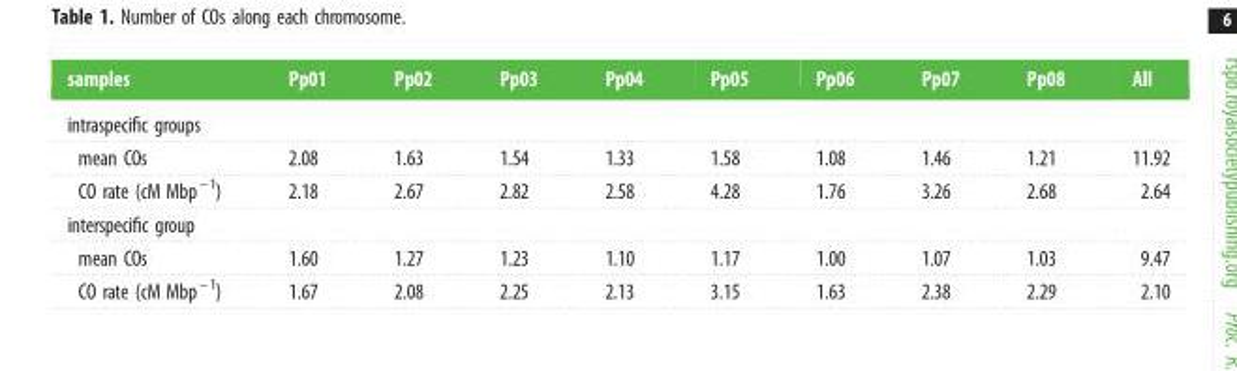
<table><thead><tr><td>samples</td><td>Pp01</td><td>Pp02</td><td>Pp03</td><td>Pp04</td><td>Pp05</td><td>Pp06</td><td>Pp07</td><td>Pp08</td><td>All</td></tr></thead><tbody><tr><td colspan="10">intraspecific groups</td></tr><tr><td>mean COs</td><td>2.08</td><td>1.63</td><td>1.54</td><td>1.33</td><td>1.58</td><td>1.08</td><td>1.46</td><td>1.21</td><td>11.92</td></tr><tr><td>CO rate (cM Mbp<sup>–1</sup>)</td><td>2.18</td><td>2.67</td><td>2.82</td><td>2.58</td><td>4.28</td><td>1.76</td><td>3.26</td><td>2.68</td><td>2.64</td></tr><tr><td colspan="10">interspecific group</td></tr><tr><td>mean COs</td><td>1.60</td><td>1.27</td><td>1.23</td><td>1.10</td><td>1.17</td><td>1.00</td><td>1.07</td><td>1.03</td><td>9.47</td></tr><tr><td>CO rate (cM Mbp<sup>–1</sup>)</td><td>1.67</td><td>2.08</td><td>2.25</td><td>2.13</td><td>3.15</td><td>1.63</td><td>2.38</td><td>2.29</td><td>2.10</td></tr></tbody></table>